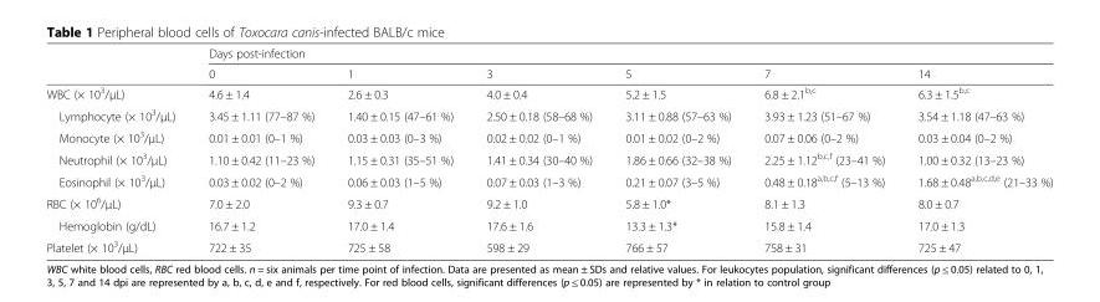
<table><thead><tr><td rowspan="2"></td><td colspan="6">Days post-infection</td></tr><tr><td>0</td><td>1</td><td>3</td><td>5</td><td>7</td><td>14</td></tr></thead><tbody><tr><td>WBC (× 10<sup>3</sup>/μL)</td><td>4.6 ± 1.4</td><td>2.6 ± 0.3</td><td>4.0 ± 0.4</td><td>5.2 ± 1.5</td><td>6.8 ± 2.1<sup>b,c</sup></td><td>6.3 ± 1.5<sup>b,c</sup></td></tr><tr><td>Lymphocyte (× 10<sup>3</sup>/μL)</td><td>3.45 ± 1.11 (77–87 %)</td><td>1.40 ± 0.15 (47–61 %)</td><td>2.50 ± 0.18 (58–68 %)</td><td>3.11 ± 0.88 (57–63 %)</td><td>3.93 ± 1.23 (51–67 %)</td><td>3.54 ± 1.18 (47–63 %)</td></tr><tr><td>Monocyte (× 10<sup>3</sup>/μL)</td><td>0.01 ± 0.01 (0–1 %)</td><td>0.03 ± 0.03 (0–3 %)</td><td>0.02 ± 0.02 (0–1 %)</td><td>0.01 ± 0.02 (0–2 %)</td><td>0.07 ± 0.06 (0–2 %)</td><td>0.03 ± 0.04 (0–2 %)</td></tr><tr><td>Neutrophil (× 10<sup>3</sup>/μL)</td><td>1.10 ± 0.42 (11–23 %)</td><td>1.15 ± 0.31 (35–51 %)</td><td>1.41 ± 0.34 (30–40 %)</td><td>1.86 ± 0.66 (32–38 %)</td><td>2.25 ± 1.12<sup>b,c,f</sup> (23–41 %)</td><td>1.00 ± 0.32 (13–23 %)</td></tr><tr><td>Eosinophil (× 10<sup>3</sup>/μL)</td><td>0.03 ± 0.02 (0–2 %)</td><td>0.06 ± 0.03 (1–5 %)</td><td>0.07 ± 0.03 (1–3 %)</td><td>0.21 ± 0.07 (3–5 %)</td><td>0.48 ± 0.18<sup>a,b,c,f</sup> (5–13 %)</td><td>1.68 ± 0.48<sup>a,b,c,d,e</sup> (21–33 %)</td></tr><tr><td>RBC (× 10<sup>6</sup>/μL)</td><td>7.0 ± 2.0</td><td>9.3 ± 0.7</td><td>9.2 ± 1.0</td><td>5.8 ± 1.0*</td><td>8.1 ± 1.3</td><td>8.0 ± 0.7</td></tr><tr><td>Hemoglobin (g/dL)</td><td>16.7 ± 1.2</td><td>17.0 ± 1.4</td><td>17.6 ± 1.6</td><td>13.3 ± 1.3*</td><td>15.8 ± 1.4</td><td>17.0 ± 1.3</td></tr><tr><td>Platelet (× 10<sup>3</sup>/μL)</td><td>722 ± 35</td><td>725 ± 58</td><td>598 ± 29</td><td>766 ± 57</td><td>758 ± 31</td><td>725 ± 47</td></tr></tbody></table>